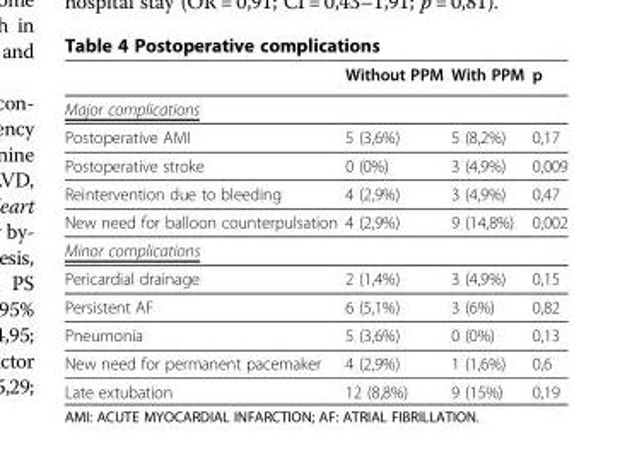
<table><thead><tr><td></td><td>Without PPM</td><td>With PPM</td><td>p</td></tr></thead><tbody><tr><td colspan="4">Major complications</td></tr><tr><td>Postoperative AMI</td><td>5 (3,6%)</td><td>5 (8,2%)</td><td>0,17</td></tr><tr><td>Postoperative stroke</td><td>0 (0%)</td><td>3 (4,9%)</td><td>0,009</td></tr><tr><td>Reintervention due to bleeding</td><td>4 (2,9%)</td><td>3 (4,9%)</td><td>0,47</td></tr><tr><td>New need for balloon counterpulsation</td><td>4 (2,9%)</td><td>9 (14,8%)</td><td>0,002</td></tr><tr><td colspan="4">Minor complications</td></tr><tr><td>Pericardial drainage</td><td>2 (1,4%)</td><td>3 (4,9%)</td><td>0,15</td></tr><tr><td>Persistent AF</td><td>6 (5,1%)</td><td>3 (6%)</td><td>0,82</td></tr><tr><td>Pneumonia</td><td>5 (3,6%)</td><td>0 (0%)</td><td>0,13</td></tr><tr><td>New need for permanent pacemaker</td><td>4 (2,9%)</td><td>1 (1,6%)</td><td>0,6</td></tr><tr><td>Late extubation</td><td>12 (8,8%)</td><td>9 (15%)</td><td>0,19</td></tr></tbody></table>